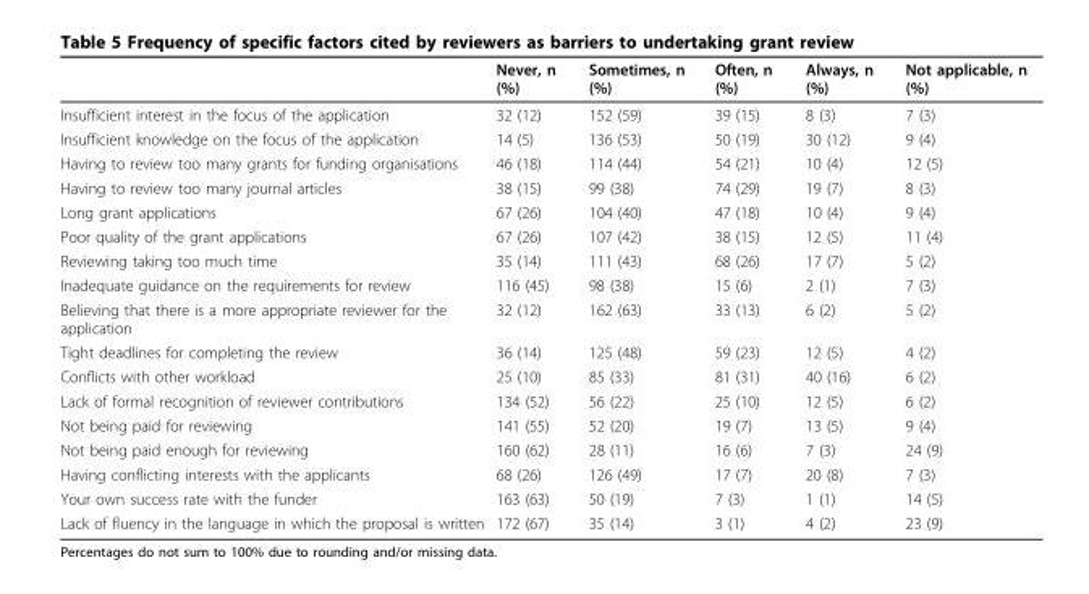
<table><thead><tr><td></td><td>Never, n (%)</td><td>Sometimes, n (%)</td><td>Often, n (%)</td><td>Always, n (%)</td><td>Not applicable, n (%)</td></tr></thead><tbody><tr><td>Insufficient interest in the focus of the application</td><td>32 (12)</td><td>152 (59)</td><td>39 (15)</td><td>8 (3)</td><td>7 (3)</td></tr><tr><td>Insufficient knowledge on the focus of the application</td><td>14 (5)</td><td>136 (53)</td><td>50 (19)</td><td>30 (12)</td><td>9 (4)</td></tr><tr><td>Having to review too many grants for funding organisations</td><td>46 (18)</td><td>114 (44)</td><td>54 (21)</td><td>10 (4)</td><td>12 (5)</td></tr><tr><td>Having to review too many journal articles</td><td>38 (15)</td><td>99 (38)</td><td>74 (29)</td><td>19 (7)</td><td>8 (3)</td></tr><tr><td>Long grant applications</td><td>67 (26)</td><td>104 (40)</td><td>47 (18)</td><td>10 (4)</td><td>9 (4)</td></tr><tr><td>Poor quality of the grant applications</td><td>67 (26)</td><td>107 (42)</td><td>38 (15)</td><td>12 (5)</td><td>11 (4)</td></tr><tr><td>Reviewing taking too much time</td><td>35 (14)</td><td>111 (43)</td><td>68 (26)</td><td>17 (7)</td><td>5 (2)</td></tr><tr><td>Inadequate guidance on the requirements for review</td><td>116 (45)</td><td>98 (38)</td><td>15 (6)</td><td>2 (1)</td><td>7 (3)</td></tr><tr><td>Believing that there is a more appropriate reviewer for the application</td><td>32 (12)</td><td>162 (63)</td><td>33 (13)</td><td>6 (2)</td><td>5 (2)</td></tr><tr><td>Tight deadlines for completing the review</td><td>36 (14)</td><td>125 (48)</td><td>59 (23)</td><td>12 (5)</td><td>4 (2)</td></tr><tr><td>Conflicts with other workload</td><td>25 (10)</td><td>85 (33)</td><td>81 (31)</td><td>40 (16)</td><td>6 (2)</td></tr><tr><td>Lack of formal recognition of reviewer contributions</td><td>134 (52)</td><td>56 (22)</td><td>25 (10)</td><td>12 (5)</td><td>6 (2)</td></tr><tr><td>Not being paid for reviewing</td><td>141 (55)</td><td>52 (20)</td><td>19 (7)</td><td>13 (5)</td><td>9 (4)</td></tr><tr><td>Not being paid enough for reviewing</td><td>160 (62)</td><td>28 (11)</td><td>16 (6)</td><td>7 (3)</td><td>24 (9)</td></tr><tr><td>Having conflicting interests with the applicants</td><td>68 (26)</td><td>126 (49)</td><td>17 (7)</td><td>20 (8)</td><td>7 (3)</td></tr><tr><td>Your own success rate with the funder</td><td>163 (63)</td><td>50 (19)</td><td>7 (3)</td><td>1 (1)</td><td>14 (5)</td></tr><tr><td>Lack of fluency in the language in which the proposal is written</td><td>172 (67)</td><td>35 (14)</td><td>3 (1)</td><td>4 (2)</td><td>23 (9)</td></tr></tbody></table>